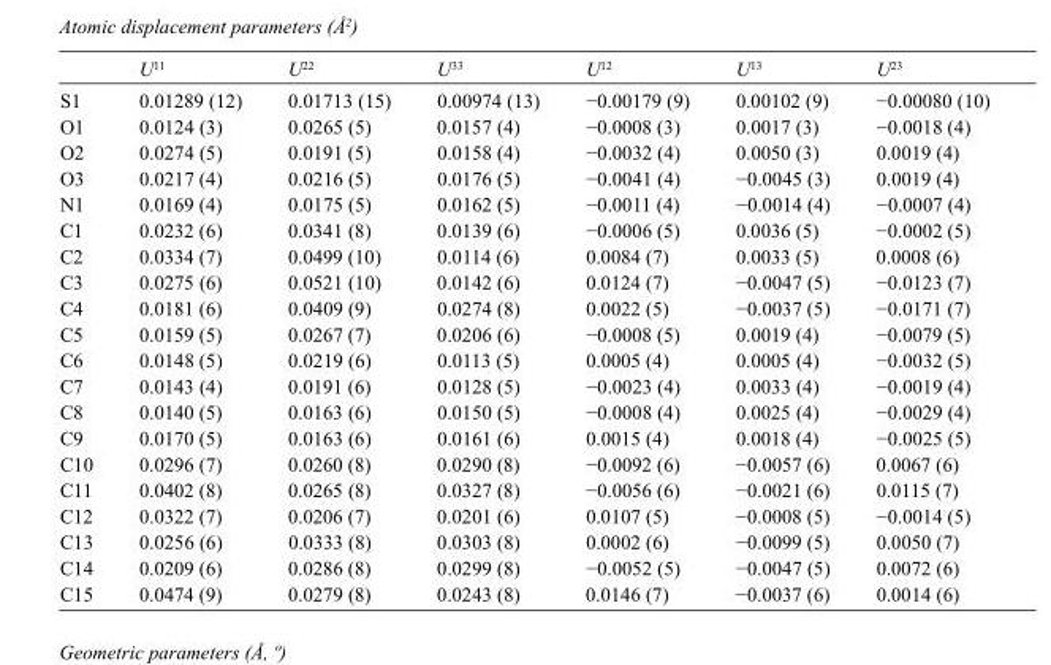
<table><thead><tr><td></td><td>U<sup>11</sup></td><td>U<sup>22</sup></td><td>U<sup>33</sup></td><td>U<sup>12</sup></td><td>U<sup>13</sup></td><td>U<sup>23</sup></td></tr></thead><tbody><tr><td>S1</td><td>0.01289 (12)</td><td>0.01713 (15)</td><td>0.00974 (13)</td><td>−0.00179 (9)</td><td>0.00102 (9)</td><td>−0.00080 (10)</td></tr><tr><td>O1</td><td>0.0124 (3)</td><td>0.0265 (5)</td><td>0.0157 (4)</td><td>−0.0008 (3)</td><td>0.0017 (3)</td><td>−0.0018 (4)</td></tr><tr><td>O2</td><td>0.0274 (5)</td><td>0.0191 (5)</td><td>0.0158 (4)</td><td>−0.0032 (4)</td><td>0.0050 (3)</td><td>0.0019 (4)</td></tr><tr><td>O3</td><td>0.0217 (4)</td><td>0.0216 (5)</td><td>0.0176 (5)</td><td>−0.0041 (4)</td><td>−0.0045 (3)</td><td>0.0019 (4)</td></tr><tr><td>N1</td><td>0.0169 (4)</td><td>0.0175 (5)</td><td>0.0162 (5)</td><td>−0.0011 (4)</td><td>−0.0014 (4)</td><td>−0.0007 (4)</td></tr><tr><td>C1</td><td>0.0232 (6)</td><td>0.0341 (8)</td><td>0.0139 (6)</td><td>−0.0006 (5)</td><td>0.0036 (5)</td><td>−0.0002 (5)</td></tr><tr><td>C2</td><td>0.0334 (7)</td><td>0.0499 (10)</td><td>0.0114 (6)</td><td>0.0084 (7)</td><td>0.0033 (5)</td><td>0.0008 (6)</td></tr><tr><td>C3</td><td>0.0275 (6)</td><td>0.0521 (10)</td><td>0.0142 (6)</td><td>0.0124 (7)</td><td>−0.0047 (5)</td><td>−0.0123 (7)</td></tr><tr><td>C4</td><td>0.0181 (6)</td><td>0.0409 (9)</td><td>0.0274 (8)</td><td>0.0022 (5)</td><td>−0.0037 (5)</td><td>−0.0171 (7)</td></tr><tr><td>C5</td><td>0.0159 (5)</td><td>0.0267 (7)</td><td>0.0206 (6)</td><td>−0.0008 (5)</td><td>0.0019 (4)</td><td>−0.0079 (5)</td></tr><tr><td>C6</td><td>0.0148 (5)</td><td>0.0219 (6)</td><td>0.0113 (5)</td><td>0.0005 (4)</td><td>0.0005 (4)</td><td>−0.0032 (5)</td></tr><tr><td>C7</td><td>0.0143 (4)</td><td>0.0191 (6)</td><td>0.0128 (5)</td><td>−0.0023 (4)</td><td>0.0033 (4)</td><td>−0.0019 (4)</td></tr><tr><td>C8</td><td>0.0140 (5)</td><td>0.0163 (6)</td><td>0.0150 (5)</td><td>−0.0008 (4)</td><td>0.0025 (4)</td><td>−0.0029 (4)</td></tr><tr><td>C9</td><td>0.0170 (5)</td><td>0.0163 (6)</td><td>0.0161 (6)</td><td>0.0015 (4)</td><td>0.0018 (4)</td><td>−0.0025 (5)</td></tr><tr><td>C10</td><td>0.0296 (7)</td><td>0.0260 (8)</td><td>0.0290 (8)</td><td>−0.0092 (6)</td><td>−0.0057 (6)</td><td>0.0067 (6)</td></tr><tr><td>C11</td><td>0.0402 (8)</td><td>0.0265 (8)</td><td>0.0327 (8)</td><td>−0.0056 (6)</td><td>−0.0021 (6)</td><td>0.0115 (7)</td></tr><tr><td>C12</td><td>0.0322 (7)</td><td>0.0206 (7)</td><td>0.0201 (6)</td><td>0.0107 (5)</td><td>−0.0008 (5)</td><td>−0.0014 (5)</td></tr><tr><td>C13</td><td>0.0256 (6)</td><td>0.0333 (8)</td><td>0.0303 (8)</td><td>0.0002 (6)</td><td>−0.0099 (5)</td><td>0.0050 (7)</td></tr><tr><td>C14</td><td>0.0209 (6)</td><td>0.0286 (8)</td><td>0.0299 (8)</td><td>−0.0052 (5)</td><td>−0.0047 (5)</td><td>0.0072 (6)</td></tr><tr><td>C15</td><td>0.0474 (9)</td><td>0.0279 (8)</td><td>0.0243 (8)</td><td>0.0146 (7)</td><td>−0.0037 (6)</td><td>0.0014 (6)</td></tr></tbody></table>